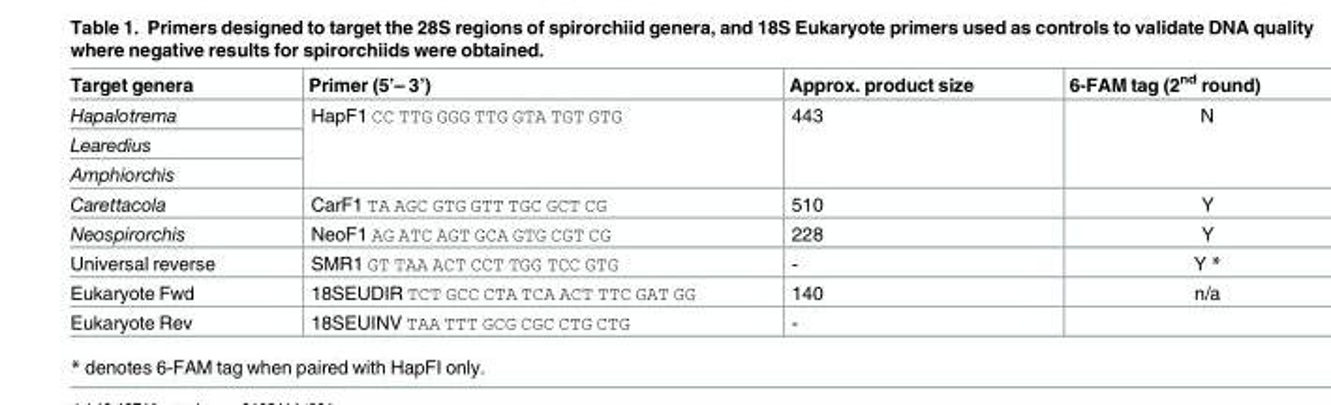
<table><thead><tr><td>Target genera</td><td>Primer (5’– 3’)</td><td>Approx. product size</td><td>6-FAM tag (2<sup>nd</sup> round)</td></tr></thead><tbody><tr><td>Hapalotrema</td><td rowspan="3">HapF1 CC TTG GGG TTG GTA TGT GTG</td><td rowspan="3">443</td><td rowspan="3">N</td></tr><tr><td>Learedius</td></tr><tr><td>Amphiorchis</td></tr><tr><td>Carettacola</td><td>CarF1 TA AGC GTG GTT TGC GCT CG</td><td>510</td><td>Y</td></tr><tr><td>Neospirorchis</td><td>NeoF1 AG ATC AGT GCA GTG CGT CG</td><td>228</td><td>Y</td></tr><tr><td>Universal reverse</td><td>SMR1 GT TAA ACT CCT TGG TCC GTG</td><td>-</td><td>Y *</td></tr><tr><td>Eukaryote Fwd</td><td>18SEUDIR TCT GCC CTA TCA ACT TTC GAT GG</td><td>140</td><td>n/a</td></tr><tr><td>Eukaryote Rev</td><td>18SEUINV TAA TTT GCG CGC CTG CTG</td><td>-</td><td></td></tr></tbody></table>